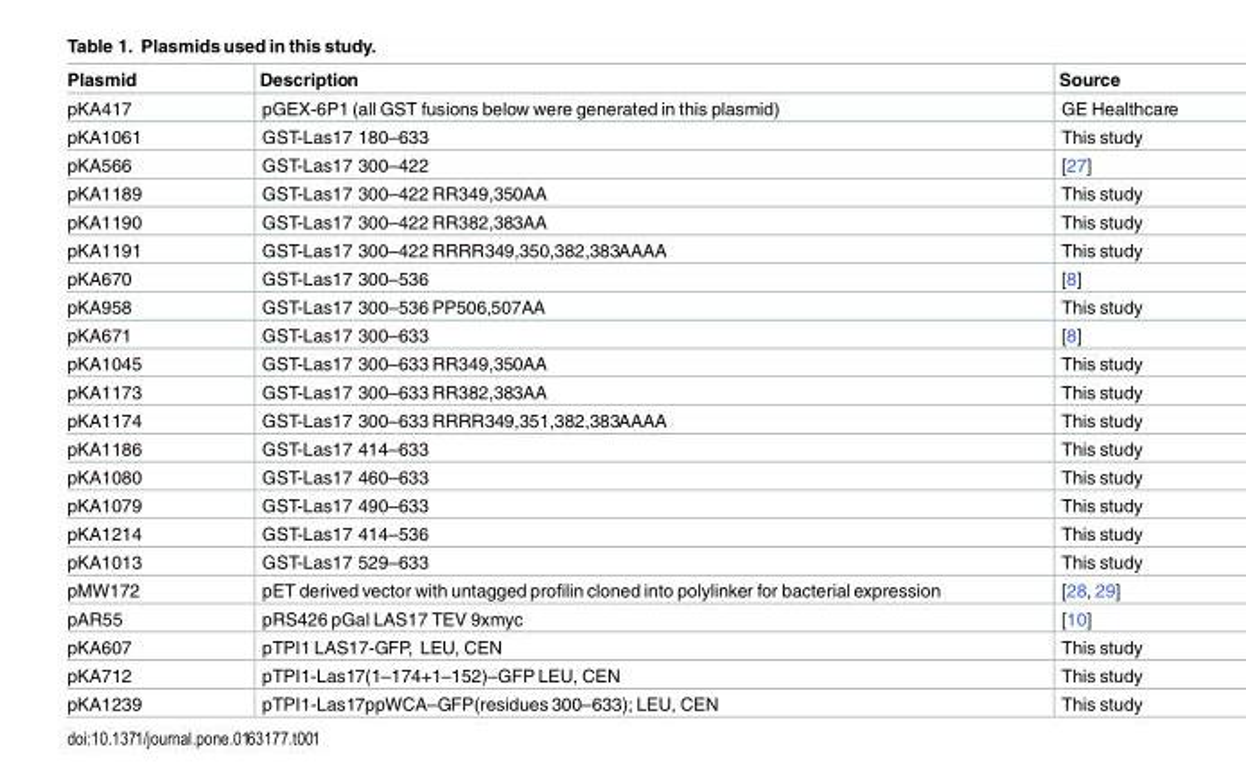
<table><thead><tr><td>Plasmid</td><td>Description</td><td>Source</td></tr></thead><tbody><tr><td>pKA417</td><td>pGEX-6P1 (all GST fusions below were generated in this plasmid)</td><td>GE Healthcare</td></tr><tr><td>pKA1061</td><td>GST-Las17 180–633</td><td>This study</td></tr><tr><td>pKA566</td><td>GST-Las17 300–422</td><td>[27]</td></tr><tr><td>pKA1189</td><td>GST-Las17 300–422 RR349,350AA</td><td>This study</td></tr><tr><td>pKA1190</td><td>GST-Las17 300–422 RR382,383AA</td><td>This study</td></tr><tr><td>pKA1191</td><td>GST-Las17 300–422 RRRR349,350,382,383AAAA</td><td>This study</td></tr><tr><td>pKA670</td><td>GST-Las17 300–536</td><td>[8]</td></tr><tr><td>pKA958</td><td>GST-Las17 300–536 PP506,507AA</td><td>This study</td></tr><tr><td>pKA671</td><td>GST-Las17 300–633</td><td>[8]</td></tr><tr><td>pKA1045</td><td>GST-Las17 300–633 RR349,350AA</td><td>This study</td></tr><tr><td>pKA1173</td><td>GST-Las17 300–633 RR382,383AA</td><td>This study</td></tr><tr><td>pKA1174</td><td>GST-Las17 300–633 RRRR349,351,382,383AAAA</td><td>This study</td></tr><tr><td>pKA1186</td><td>GST-Las17 414–633</td><td>This study</td></tr><tr><td>pKA1080</td><td>GST-Las17 460–633</td><td>This study</td></tr><tr><td>pKA1079</td><td>GST-Las17 490–633</td><td>This study</td></tr><tr><td>pKA1214</td><td>GST-Las17 414–536</td><td>This study</td></tr><tr><td>pKA1013</td><td>GST-Las17 529–633</td><td>This study</td></tr><tr><td>pMW172</td><td>pET derived vector with untagged profilin cloned into polylinker for bacterial expression</td><td>[28, 29]</td></tr><tr><td>pAR55</td><td>pRS426 pGal LAS17 TEV 9xmyc</td><td>[10]</td></tr><tr><td>pKA607</td><td>pTPI1 LAS17-GFP, LEU, CEN</td><td>This study</td></tr><tr><td>pKA712</td><td>pTPI1-Las17(1–174+1–152)–GFP LEU, CEN</td><td>This study</td></tr><tr><td>pKA1239</td><td>pTPI1-Las17ppWCA–GFP(residues 300–633); LEU, CEN</td><td>This study</td></tr></tbody></table>